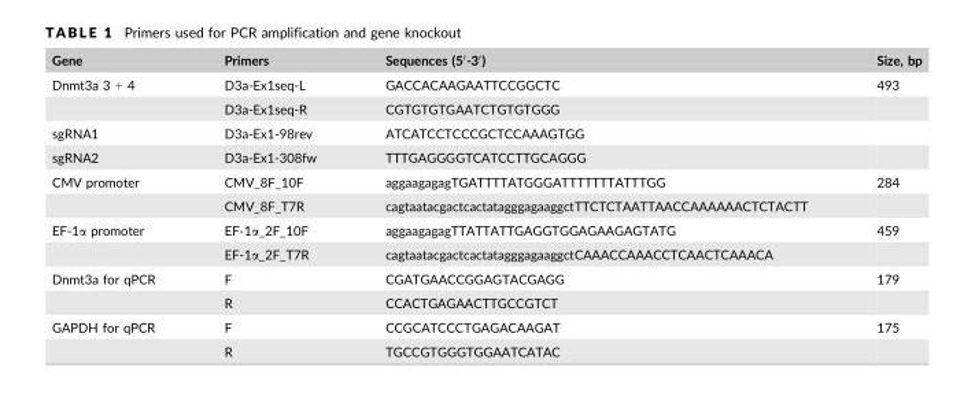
<table><thead><tr><td>Gene</td><td>Primers</td><td>Sequences (5′-3′)</td><td>Size, bp</td></tr></thead><tbody><tr><td rowspan="2">Dnmt3a 3 + 4</td><td>D3a-Ex1seq-L</td><td>GACCACAAGAATTCCGGCTC</td><td>493</td></tr><tr><td>D3a-Ex1seq-R</td><td>CGTGTGTGAATCTGTGTGGG</td><td></td></tr><tr><td>sgRNA1</td><td>D3a-Ex1-98rev</td><td>ATCATCCTCCCGCTCCAAAGTGG</td><td></td></tr><tr><td>sgRNA2</td><td>D3a-Ex1-308fw</td><td>TTTGAGGGGTCATCCTTGCAGGG</td><td></td></tr><tr><td rowspan="2">CMV promoter</td><td>CMV_8F_10F</td><td>aggaagagagTGATTTTATGGGATTTTTTTATTTGG</td><td>284</td></tr><tr><td>CMV_8F_T7R</td><td>cagtaatacgactcactatagggagaaggctTTCTCTAATTAACCAAAAAACTCTACTT</td><td></td></tr><tr><td rowspan="2">EF-1α promoter</td><td>EF-1α_2F_10F</td><td>aggaagagagTTATTATTGAGGTGGAGAAGAGTATG</td><td>459</td></tr><tr><td>EF-1α_2F_T7R</td><td>cagtaatacgactcactatagggagaaggctCAAACCAAACCTCAACTCAAACA</td><td></td></tr><tr><td rowspan="2">Dnmt3a for qPCR</td><td>F</td><td>CGATGAACCGGAGTACGAGG</td><td>179</td></tr><tr><td>R</td><td>CCACTGAGAACTTGCCGTCT</td><td></td></tr><tr><td rowspan="2">GAPDH for qPCR</td><td>F</td><td>CCGCATCCCTGAGACAAGAT</td><td>175</td></tr><tr><td>R</td><td>TGCCGTGGGTGGAATCATAC</td><td></td></tr></tbody></table>